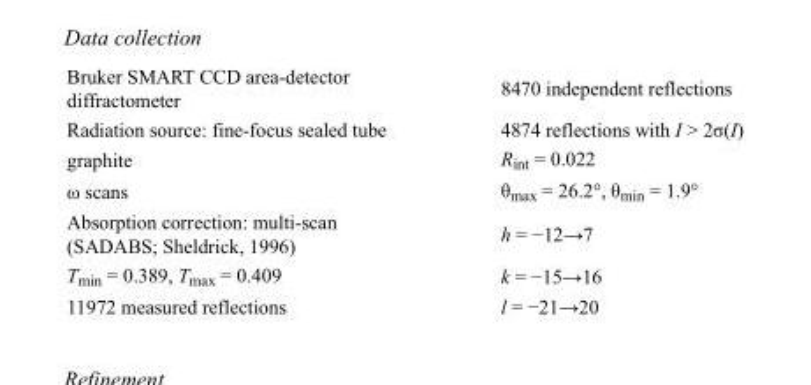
<table><tbody><tr><td>Bruker SMART CCD area-detector diffractometer</td><td>8470 independent reflections</td></tr><tr><td>Radiation source: fine-focus sealed tube</td><td>4874 reflections with I &gt; 2σ(I)</td></tr><tr><td>graphite</td><td>R<sub>int</sub> = 0.022</td></tr><tr><td>ω scans</td><td>θ<sub>max</sub> = 26.2°, θ<sub>min</sub> = 1.9°</td></tr><tr><td>Absorption correction: multi-scan (SADABS; Sheldrick, 1996)</td><td>h = −12→7</td></tr><tr><td>T<sub>min</sub> = 0.389, T<sub>max</sub> = 0.409</td><td>k = −15→16</td></tr><tr><td>11972 measured reflections</td><td>l = −21→20</td></tr></tbody></table>